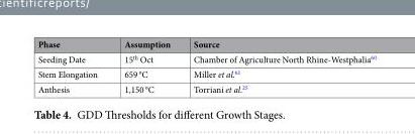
<table><thead><tr><td>Phase</td><td>Assumption</td><td>Source</td></tr></thead><tbody><tr><td>Seeding Date</td><td>15<sup>th</sup> Oct</td><td>Chamber of Agriculture North Rhine-Westphalia<sup>60</sup></td></tr><tr><td>Stem Elongation</td><td>659 °C</td><td>Miller et al.<sup>61</sup></td></tr><tr><td>Anthesis</td><td>1,150 °C</td><td>Torriani et al.<sup>25</sup></td></tr></tbody></table>